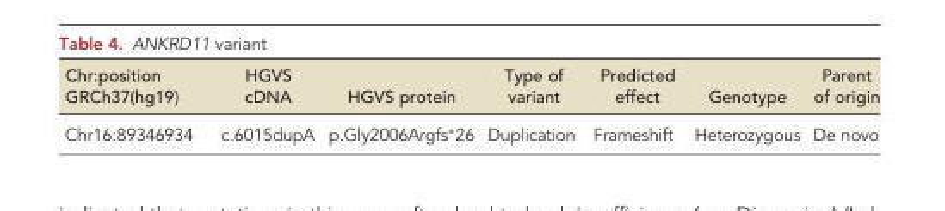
<table><thead><tr><td>Chr:position GRCh37(hg19)</td><td>HGVS cDNA</td><td>HGVS protein</td><td>Type of variant</td><td>Predicted effect</td><td>Genotype</td><td>Parent of origin</td></tr></thead><tbody><tr><td>Chr16:89346934</td><td>c.6015dupA</td><td>p.Gly2006Argfs∗26</td><td>Duplication</td><td>Frameshift</td><td>Heterozygous</td><td>De novo</td></tr></tbody></table>